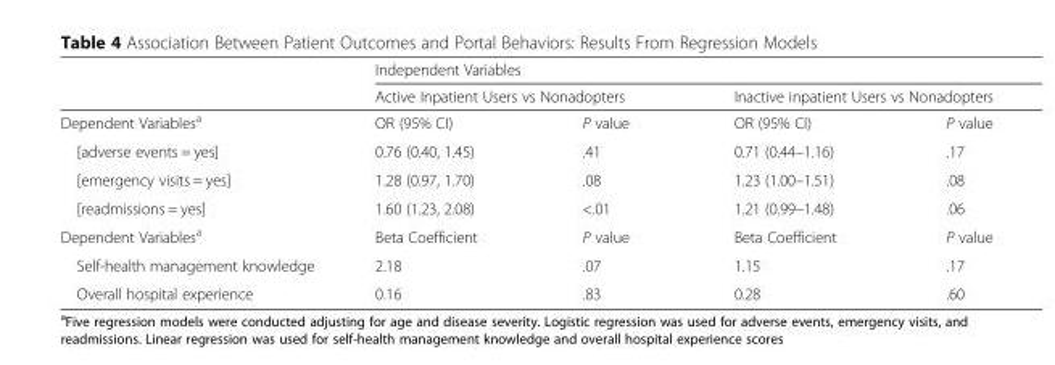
<table><thead><tr><td rowspan="3">Dependent Variables<sup>a</sup></td><td colspan="4">Independent Variables</td></tr><tr><td colspan="2">Active Inpatient Users vs Nonadopters</td><td colspan="2">Inactive inpatient Users vs Nonadopters</td></tr><tr><td>OR (95% CI)</td><td>P value</td><td>OR (95% CI)</td><td>P value</td></tr></thead><tbody><tr><td>[adverse events = yes]</td><td>0.76 (0.40, 1.45)</td><td>.41</td><td>0.71 (0.44–1.16)</td><td>.17</td></tr><tr><td>[emergency visits = yes]</td><td>1.28 (0.97, 1.70)</td><td>.08</td><td>1.23 (1.00–1.51)</td><td>.08</td></tr><tr><td>[readmissions = yes]</td><td>1.60 (1.23, 2.08)</td><td>&lt;.01</td><td>1.21 (0.99–1.48)</td><td>.06</td></tr><tr><td>Dependent Variables<sup>a</sup></td><td>Beta Coefficient</td><td>P value</td><td>Beta Coefficient</td><td>P value</td></tr><tr><td>Self-health management knowledge</td><td>2.18</td><td>.07</td><td>1.15</td><td>.17</td></tr><tr><td>Overall hospital experience</td><td>0.16</td><td>.83</td><td>0.28</td><td>.60</td></tr></tbody></table>